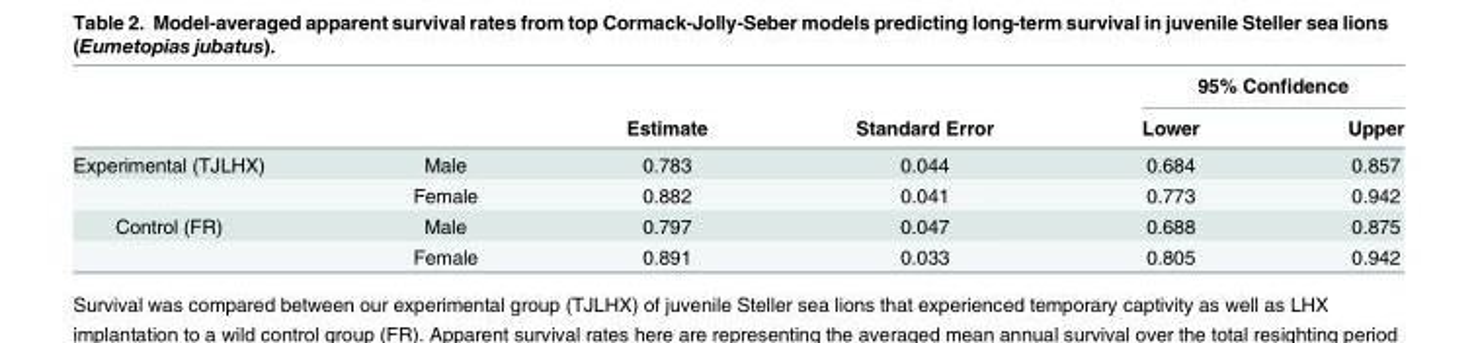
<table><thead><tr><td rowspan="2"></td><td rowspan="2"></td><td rowspan="2">Estimate</td><td rowspan="2">Standard Error</td><td colspan="2">95% Confidence</td></tr><tr><td>Lower</td><td>Upper</td></tr></thead><tbody><tr><td rowspan="2">Experimental (TJLHX)</td><td>Male</td><td>0.783</td><td>0.044</td><td>0.684</td><td>0.857</td></tr><tr><td>Female</td><td>0.882</td><td>0.041</td><td>0.773</td><td>0.942</td></tr><tr><td rowspan="2">Control (FR)</td><td>Male</td><td>0.797</td><td>0.047</td><td>0.688</td><td>0.875</td></tr><tr><td>Female</td><td>0.891</td><td>0.033</td><td>0.805</td><td>0.942</td></tr></tbody></table>